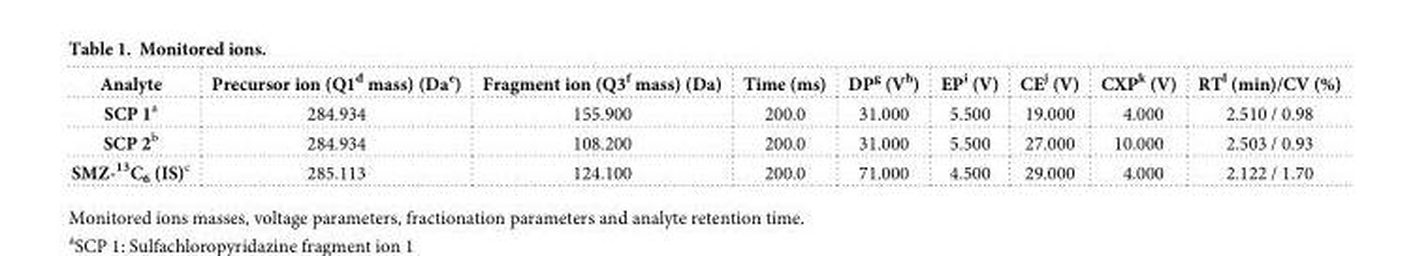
<table><thead><tr><td>Analyte</td><td>Precursor ion (Q1<sup>d</sup> mass) (Da<sup>e</sup>)</td><td>Fragment ion (Q3<sup>f</sup> mass) (Da)</td><td>Time (ms)</td><td>DP<sup>g</sup> (V<sup>h</sup>)</td><td>EP<sup>i</sup> (V)</td><td>CE<sup>j</sup> (V)</td><td>CXP<sup>k</sup> (V)</td><td>RT<sup>l</sup> (min)/CV (%)</td></tr></thead><tbody><tr><td>SCP 1<sup>a</sup></td><td>284.934</td><td>155.900</td><td>200.0</td><td>31.000</td><td>5.500</td><td>19.000</td><td>4.000</td><td>2.510 / 0.98</td></tr><tr><td>SCP 2<sup>b</sup></td><td>284.934</td><td>108.200</td><td>200.0</td><td>31.000</td><td>5.500</td><td>27.000</td><td>10.000</td><td>2.503 / 0.93</td></tr><tr><td>SMZ-<sup>13</sup>C<sub>6</sub> (IS)<sup>c</sup></td><td>285.113</td><td>124.100</td><td>200.0</td><td>71.000</td><td>4.500</td><td>29.000</td><td>4.000</td><td>2.122 / 1.70</td></tr></tbody></table>